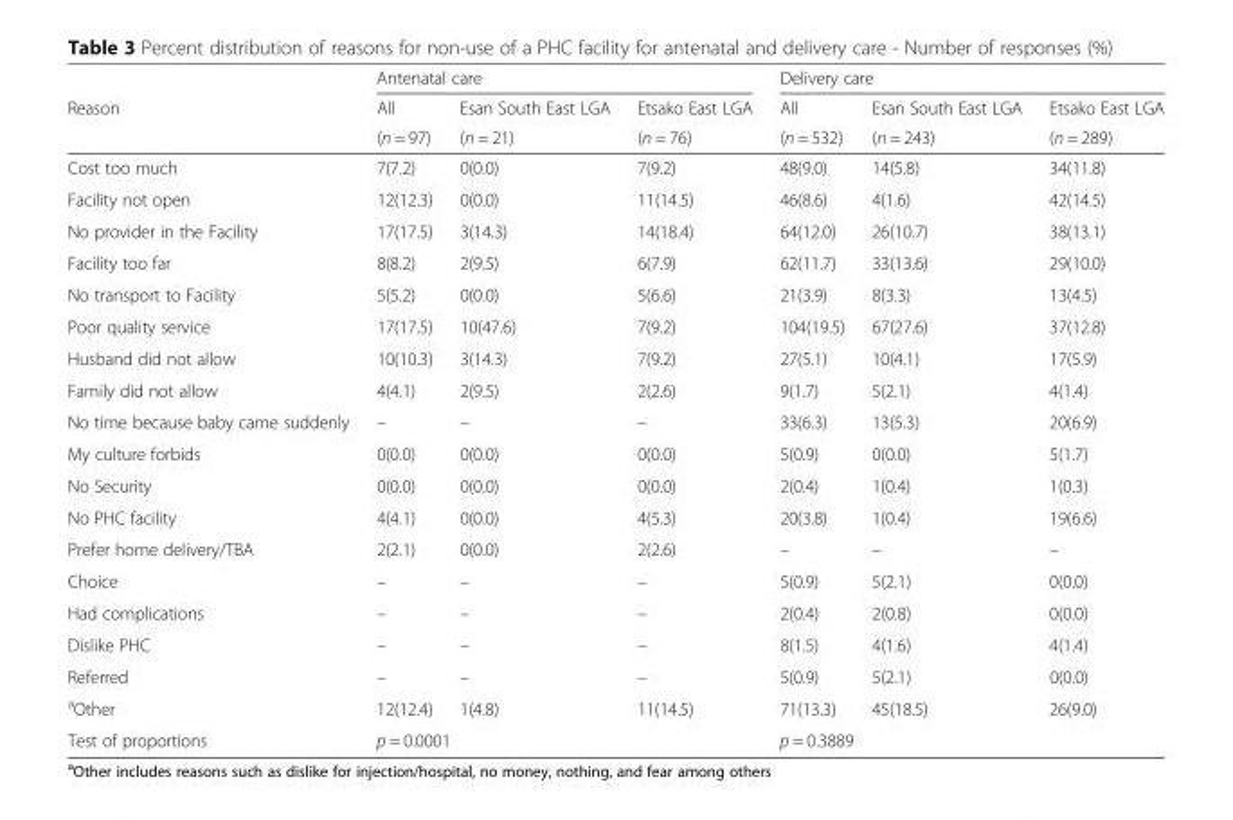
<table><thead><tr><td rowspan="3">Reason</td><td colspan="3">Antenatal care</td><td colspan="3">Delivery care</td></tr><tr><td rowspan="2">All (n = 97)</td><td rowspan="2">Esan South East LGA (n = 21)</td><td rowspan="2">Etsako East LGA (n = 76)</td><td rowspan="2">All (n = 532)</td><td rowspan="2">Esan South East LGA (n = 243)</td><td rowspan="2">Etsako East LGA (n = 289)</td></tr><tr></tr></thead><tbody><tr><td>Cost too much</td><td>7(7.2)</td><td>0(0.0)</td><td>7(9.2)</td><td>48(9.0)</td><td>14(5.8)</td><td>34(11.8)</td></tr><tr><td>Facility not open</td><td>12(12.3)</td><td>0(0.0)</td><td>11(14.5)</td><td>46(8.6)</td><td>4(1.6)</td><td>42(14.5)</td></tr><tr><td>No provider in the Facility</td><td>17(17.5)</td><td>3(14.3)</td><td>14(18.4)</td><td>64(12.0)</td><td>26(10.7)</td><td>38(13.1)</td></tr><tr><td>Facility too far</td><td>8(8.2)</td><td>2(9.5)</td><td>6(7.9)</td><td>62(11.7)</td><td>33(13.6)</td><td>29(10.0)</td></tr><tr><td>No transport to Facility</td><td>5(5.2)</td><td>0(0.0)</td><td>5(6.6)</td><td>21(3.9)</td><td>8(3.3)</td><td>13(4.5)</td></tr><tr><td>Poor quality service</td><td>17(17.5)</td><td>10(47.6)</td><td>7(9.2)</td><td>104(19.5)</td><td>67(27.6)</td><td>37(12.8)</td></tr><tr><td>Husband did not allow</td><td>10(10.3)</td><td>3(14.3)</td><td>7(9.2)</td><td>27(5.1)</td><td>10(4.1)</td><td>17(5.9)</td></tr><tr><td>Family did not allow</td><td>4(4.1)</td><td>2(9.5)</td><td>2(2.6)</td><td>9(1.7)</td><td>5(2.1)</td><td>4(1.4)</td></tr><tr><td>No time because baby came suddenly</td><td>–</td><td>–</td><td>–</td><td>33(6.3)</td><td>13(5.3)</td><td>20(6.9)</td></tr><tr><td>My culture forbids</td><td>0(0.0)</td><td>0(0.0)</td><td>0(0.0)</td><td>5(0.9)</td><td>0(0.0)</td><td>5(1.7)</td></tr><tr><td>No Security</td><td>0(0.0)</td><td>0(0.0)</td><td>0(0.0)</td><td>2(0.4)</td><td>1(0.4)</td><td>1(0.3)</td></tr><tr><td>No PHC facility</td><td>4(4.1)</td><td>0(0.0)</td><td>4(5.3)</td><td>20(3.8)</td><td>1(0.4)</td><td>19(6.6)</td></tr><tr><td>Prefer home delivery/TBA</td><td>2(2.1)</td><td>0(0.0)</td><td>2(2.6)</td><td>–</td><td>–</td><td>–</td></tr><tr><td>Choice</td><td>–</td><td>–</td><td>–</td><td>5(0.9)</td><td>5(2.1)</td><td>0(0.0)</td></tr><tr><td>Had complications</td><td>–</td><td>–</td><td>–</td><td>2(0.4)</td><td>2(0.8)</td><td>0(0.0)</td></tr><tr><td>Dislike PHC</td><td>–</td><td>–</td><td>–</td><td>8(1.5)</td><td>4(1.6)</td><td>4(1.4)</td></tr><tr><td>Referred</td><td>–</td><td>–</td><td>–</td><td>5(0.9)</td><td>5(2.1)</td><td>0(0.0)</td></tr><tr><td><sup>a</sup>Other</td><td>12(12.4)</td><td>1(4.8)</td><td>11(14.5)</td><td>71(13.3)</td><td>45(18.5)</td><td>26(9.0)</td></tr><tr><td>Test of proportions</td><td colspan="3">p = 0.0001</td><td colspan="3">p = 0.3889</td></tr></tbody></table>